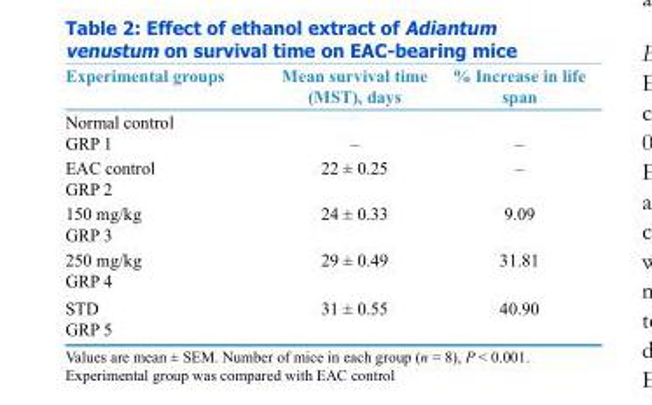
<table><thead><tr><td>Experimental groups</td><td>Mean survival time (MST), days</td><td>% Increase in life span</td></tr></thead><tbody><tr><td>Normal control GRP 1</td><td>–</td><td>–</td></tr><tr><td>EAC control GRP 2</td><td>22 ± 0.25</td><td>–</td></tr><tr><td>150 mg/kg GRP 3</td><td>24 ± 0.33</td><td>9.09</td></tr><tr><td>250 mg/kg GRP 4</td><td>29 ± 0.49</td><td>31.81</td></tr><tr><td>STD GRP 5</td><td>31 ± 0.55</td><td>40.90</td></tr></tbody></table>